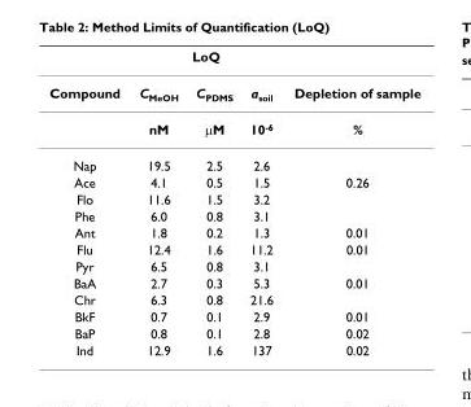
<table><thead><tr><td rowspan="2">Compound</td><td colspan="3">LoQ</td><td rowspan="2">Depletion of sample</td></tr><tr><td>C<sub>MeOH</sub></td><td>C<sub>PDMS</sub></td><td>a<sub>soil</sub></td></tr></thead><tbody><tr><td></td><td>nM</td><td>µM</td><td>10<sup>-6</sup></td><td>%</td></tr><tr><td>Nap</td><td>19.5</td><td>2.5</td><td>2.6</td><td></td></tr><tr><td>Ace</td><td>4.1</td><td>0.5</td><td>1.5</td><td>0.26</td></tr><tr><td>Flo</td><td>11.6</td><td>1.5</td><td>3.2</td><td></td></tr><tr><td>Phe</td><td>6.0</td><td>0.8</td><td>3.1</td><td></td></tr><tr><td>Ant</td><td>1.8</td><td>0.2</td><td>1.3</td><td>0.01</td></tr><tr><td>Flu</td><td>12.4</td><td>1.6</td><td>11.2</td><td>0.01</td></tr><tr><td>Pyr</td><td>6.5</td><td>0.8</td><td>3.1</td><td></td></tr><tr><td>BaA</td><td>2.7</td><td>0.3</td><td>5.3</td><td>0.01</td></tr><tr><td>Chr</td><td>6.3</td><td>0.8</td><td>21.6</td><td></td></tr><tr><td>BkF</td><td>0.7</td><td>0.1</td><td>2.9</td><td>0.01</td></tr><tr><td>BaP</td><td>0.8</td><td>0.1</td><td>2.8</td><td>0.02</td></tr><tr><td>Ind</td><td>12.9</td><td>1.6</td><td>137</td><td>0.02</td></tr></tbody></table>